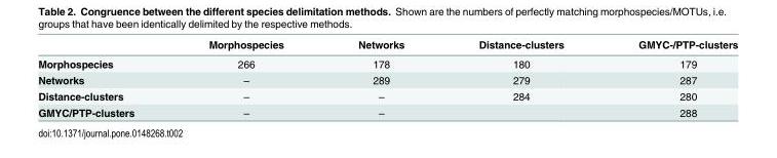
<table><thead><tr><td></td><td>Morphospecies</td><td>Networks</td><td>Distance-clusters</td><td>GMYC-/PTP-clusters</td></tr></thead><tbody><tr><td>Morphospecies</td><td>266</td><td>178</td><td>180</td><td>179</td></tr><tr><td>Networks</td><td>–</td><td>289</td><td>279</td><td>287</td></tr><tr><td>Distance-clusters</td><td>–</td><td>–</td><td>284</td><td>280</td></tr><tr><td>GMYC/PTP-clusters</td><td>–</td><td>–</td><td></td><td>288</td></tr></tbody></table>